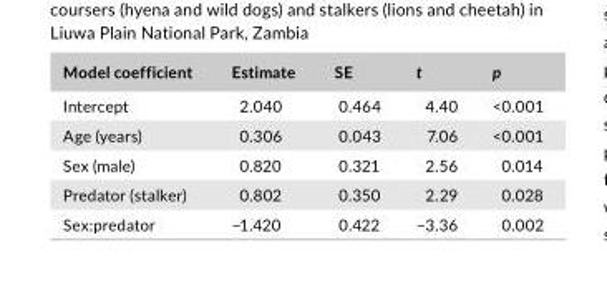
<table><thead><tr><td>Model coefficient</td><td>Estimate</td><td>SE</td><td>t</td><td>p</td></tr></thead><tbody><tr><td>Intercept</td><td>2.040</td><td>0.464</td><td>4.40</td><td>&lt;0.001</td></tr><tr><td>Age (years)</td><td>0.306</td><td>0.043</td><td>7.06</td><td>&lt;0.001</td></tr><tr><td>Sex (male)</td><td>0.820</td><td>0.321</td><td>2.56</td><td>0.014</td></tr><tr><td>Predator (stalker)</td><td>0.802</td><td>0.350</td><td>2.29</td><td>0.028</td></tr><tr><td>Sex:predator</td><td>−1.420</td><td>0.422</td><td>−3.36</td><td>0.002</td></tr></tbody></table>